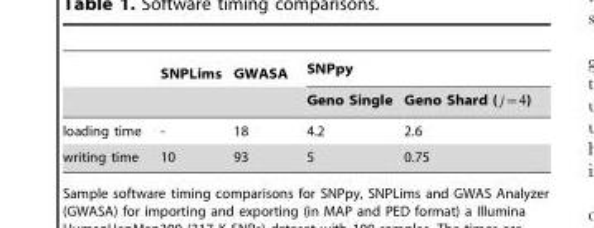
<table><thead><tr><td rowspan="2"></td><td rowspan="2">SNPLims</td><td rowspan="2">GWASA</td><td colspan="2">SNPpy</td></tr><tr><td>Geno Single</td><td>Geno Shard ( j~4)</td></tr></thead><tbody><tr><td>loading time</td><td>-</td><td>18</td><td>4.2</td><td>2.6</td></tr><tr><td>writing time</td><td>10</td><td>93</td><td>5</td><td>0.75</td></tr></tbody></table>